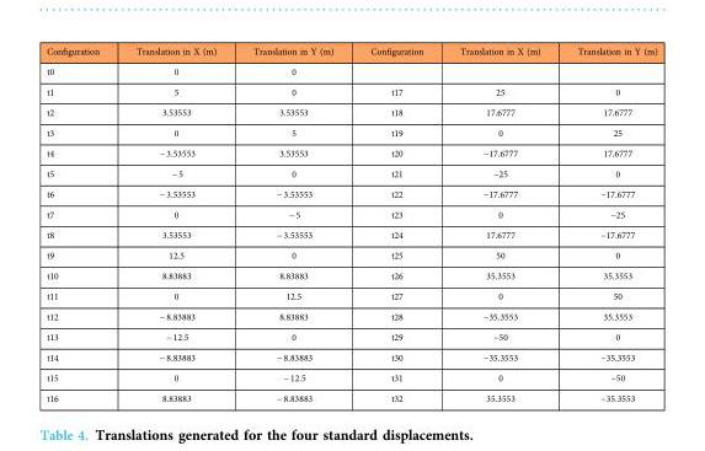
<table><thead><tr><td>Configuration</td><td>Translation in X (m)</td><td>Translation in Y (m)</td><td>Configuration</td><td>Translation in X (m)</td><td>Translation in Y (m)</td></tr></thead><tbody><tr><td>t0</td><td>0</td><td>0</td><td></td><td></td><td></td></tr><tr><td>t1</td><td>5</td><td>0</td><td>t17</td><td>25</td><td>0</td></tr><tr><td>t2</td><td>3.53553</td><td>3.53553</td><td>t18</td><td>17.6777</td><td>17.6777</td></tr><tr><td>t3</td><td>0</td><td>5</td><td>t19</td><td>0</td><td>25</td></tr><tr><td>t4</td><td>− 3.53553</td><td>3.53553</td><td>t20</td><td>−17.6777</td><td>17.6777</td></tr><tr><td>t5</td><td>− 5</td><td>0</td><td>t21</td><td>−25</td><td>0</td></tr><tr><td>t6</td><td>− 3.53553</td><td>− 3.53553</td><td>t22</td><td>−17.6777</td><td>−17.6777</td></tr><tr><td>t7</td><td>0</td><td>− 5</td><td>t23</td><td>0</td><td>−25</td></tr><tr><td>t8</td><td>3.53553</td><td>− 3.53553</td><td>t24</td><td>17.6777</td><td>−17.6777</td></tr><tr><td>t9</td><td>12.5</td><td>0</td><td>t25</td><td>50</td><td>0</td></tr><tr><td>t10</td><td>8.83883</td><td>8.83883</td><td>t26</td><td>35.3553</td><td>35.3553</td></tr><tr><td>t11</td><td>0</td><td>12.5</td><td>t27</td><td>0</td><td>50</td></tr><tr><td>t12</td><td>− 8.83883</td><td>8.83883</td><td>t28</td><td>−35.3553</td><td>35.3553</td></tr><tr><td>t13</td><td>− 12.5</td><td>0</td><td>t29</td><td>−50</td><td>0</td></tr><tr><td>t14</td><td>− 8.83883</td><td>− 8.83883</td><td>t30</td><td>−35.3553</td><td>−35.3553</td></tr><tr><td>t15</td><td>0</td><td>− 12.5</td><td>t31</td><td>0</td><td>−50</td></tr><tr><td>t16</td><td>8.83883</td><td>− 8.83883</td><td>t32</td><td>35.3553</td><td>−35.3553</td></tr></tbody></table>